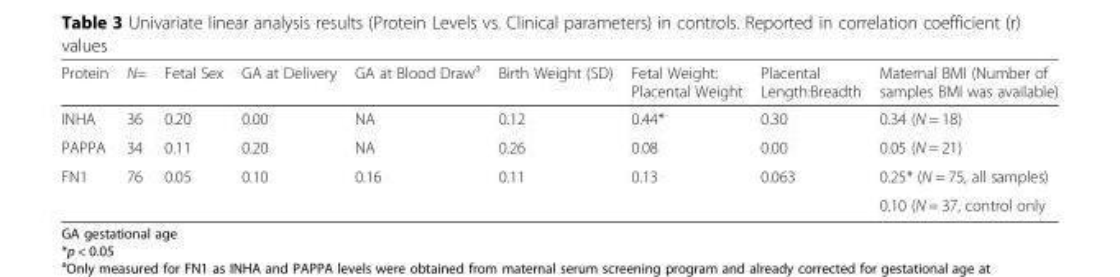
<table><thead><tr><td>Protein</td><td>N=</td><td>Fetal Sex</td><td>GA at Delivery</td><td>GA at Blood Draw<sup>a</sup></td><td>Birth Weight (SD)</td><td>Fetal Weight: Placental Weight</td><td>Placental Length:Breadth</td><td>Maternal BMI (Number of samples BMI was available)</td></tr></thead><tbody><tr><td>INHA</td><td>36</td><td>0.20</td><td>0.00</td><td>NA</td><td>0.12</td><td>0.44*</td><td>0.30</td><td>0.34 (N = 18)</td></tr><tr><td>PAPPA</td><td>34</td><td>0.11</td><td>0.20</td><td>NA</td><td>0.26</td><td>0.08</td><td>0.00</td><td>0.05 (N = 21)</td></tr><tr><td rowspan="2">FN1</td><td rowspan="2">76</td><td rowspan="2">0.05</td><td rowspan="2">0.10</td><td rowspan="2">0.16</td><td rowspan="2">0.11</td><td rowspan="2">0.13</td><td rowspan="2">0.063</td><td>0.25* (N = 75, all samples)</td></tr><tr><td>0.10 (N = 37, control only</td></tr></tbody></table>